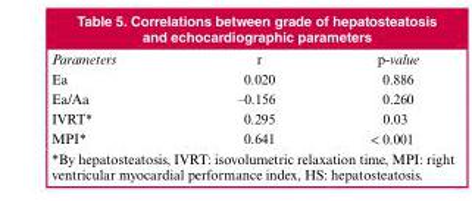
<table><thead><tr><td>Parameters</td><td>r</td><td>p-value</td></tr></thead><tbody><tr><td>Ea</td><td>0.020</td><td>0.886</td></tr><tr><td>Ea/Aa</td><td>–0.156</td><td>0.260</td></tr><tr><td>IVRT*</td><td>0.295</td><td>0.03</td></tr><tr><td>MPI*</td><td>0.641</td><td>&lt; 0.001</td></tr></tbody></table>